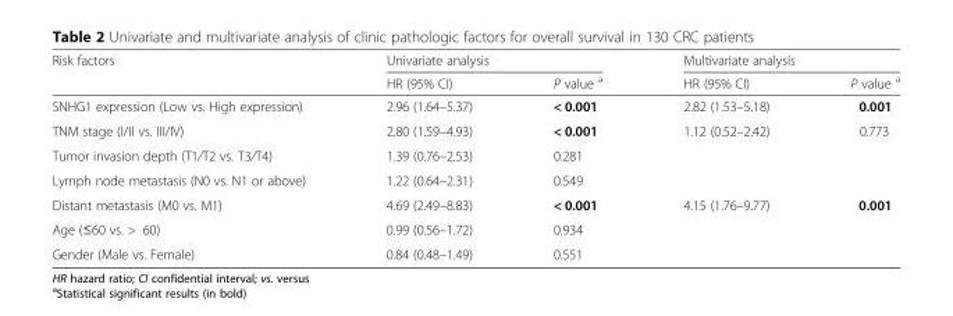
<table><thead><tr><td rowspan="2">Risk factors</td><td colspan="2">Univariate analysis</td><td colspan="2">Multivariate analysis</td></tr><tr><td>HR (95% CI)</td><td>P value <sup>a</sup></td><td>HR (95% CI)</td><td>P value <sup>a</sup></td></tr></thead><tbody><tr><td>SNHG1 expression (Low vs. High expression)</td><td>2.96 (1.64–5.37)</td><td>&lt; 0.001</td><td>2.82 (1.53–5.18)</td><td>0.001</td></tr><tr><td>TNM stage (I/II vs. III/IV)</td><td>2.80 (1.59–4.93)</td><td>&lt; 0.001</td><td>1.12 (0.52–2.42)</td><td>0.773</td></tr><tr><td>Tumor invasion depth (T1/T2 vs. T3/T4)</td><td>1.39 (0.76–2.53)</td><td>0.281</td><td></td><td></td></tr><tr><td>Lymph node metastasis (N0 vs. N1 or above)</td><td>1.22 (0.64–2.31)</td><td>0.549</td><td></td><td></td></tr><tr><td>Distant metastasis (M0 vs. M1)</td><td>4.69 (2.49–8.83)</td><td>&lt; 0.001</td><td>4.15 (1.76–9.77)</td><td>0.001</td></tr><tr><td>Age (≤60 vs. &gt; 60)</td><td>0.99 (0.56–1.72)</td><td>0.934</td><td></td><td></td></tr><tr><td>Gender (Male vs. Female)</td><td>0.84 (0.48–1.49)</td><td>0.551</td><td></td><td></td></tr></tbody></table>